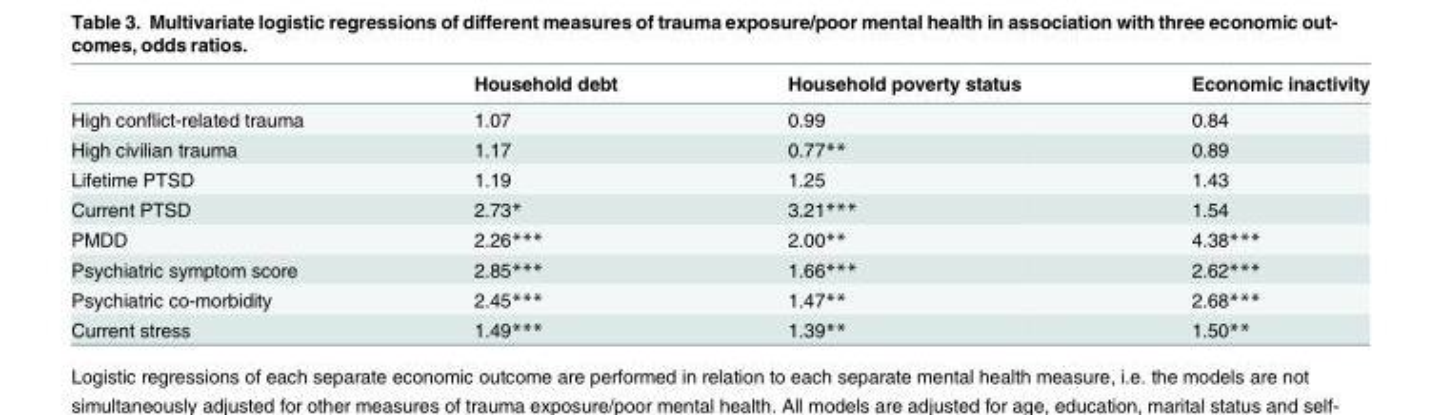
<table><thead><tr><td></td><td>Household debt</td><td>Household poverty status</td><td>Economic inactivity</td></tr></thead><tbody><tr><td>High conflict-related trauma</td><td>1.07</td><td>0.99</td><td>0.84</td></tr><tr><td>High civilian trauma</td><td>1.17</td><td>0.77**</td><td>0.89</td></tr><tr><td>Lifetime PTSD</td><td>1.19</td><td>1.25</td><td>1.43</td></tr><tr><td>Current PTSD</td><td>2.73*</td><td>3.21***</td><td>1.54</td></tr><tr><td>PMDD</td><td>2.26***</td><td>2.00**</td><td>4.38***</td></tr><tr><td>Psychiatric symptom score</td><td>2.85***</td><td>1.66***</td><td>2.62***</td></tr><tr><td>Psychiatric co-morbidity</td><td>2.45***</td><td>1.47**</td><td>2.68***</td></tr><tr><td>Current stress</td><td>1.49***</td><td>1.39**</td><td>1.50**</td></tr></tbody></table>